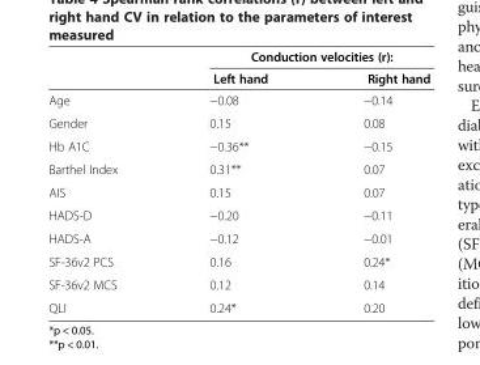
<table><thead><tr><td rowspan="2"></td><td colspan="2">Conduction velocities (r):</td></tr><tr><td>Left hand</td><td>Right hand</td></tr></thead><tbody><tr><td>Age</td><td>−0.08</td><td>−0.14</td></tr><tr><td>Gender</td><td>0.15</td><td>0.08</td></tr><tr><td>Hb A1C</td><td>−0.36**</td><td>−0.15</td></tr><tr><td>Barthel Index</td><td>0.31**</td><td>0.07</td></tr><tr><td>AIS</td><td>0.15</td><td>0.07</td></tr><tr><td>HADS-D</td><td>−0.20</td><td>−0.11</td></tr><tr><td>HADS-A</td><td>−0.12</td><td>−0.01</td></tr><tr><td>SF-36v2 PCS</td><td>0.16</td><td>0.24*</td></tr><tr><td>SF-36v2 MCS</td><td>0.12</td><td>0.14</td></tr><tr><td>QLI</td><td>0.24*</td><td>0.20</td></tr></tbody></table>